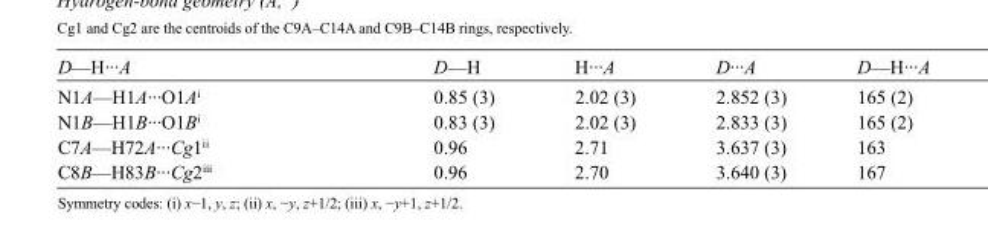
<table><tbody><tr><td>D—H···A</td><td>D—H</td><td>H···A</td><td>D···A</td><td>D—H···A</td></tr><tr><td>N1A—H1A···O1A<sup>i</sup></td><td>0.85 (3)</td><td>2.02 (3)</td><td>2.852 (3)</td><td>165 (2)</td></tr><tr><td>N1B—H1B···O1B<sup>i</sup></td><td>0.83 (3)</td><td>2.02 (3)</td><td>2.833 (3)</td><td>165 (2)</td></tr><tr><td>C7A—H72A···Cg1<sup>ii</sup></td><td>0.96</td><td>2.71</td><td>3.637 (3)</td><td>163</td></tr><tr><td>C8B—H83B···Cg2<sup>iii</sup></td><td>0.96</td><td>2.70</td><td>3.640 (3)</td><td>167</td></tr></tbody></table>